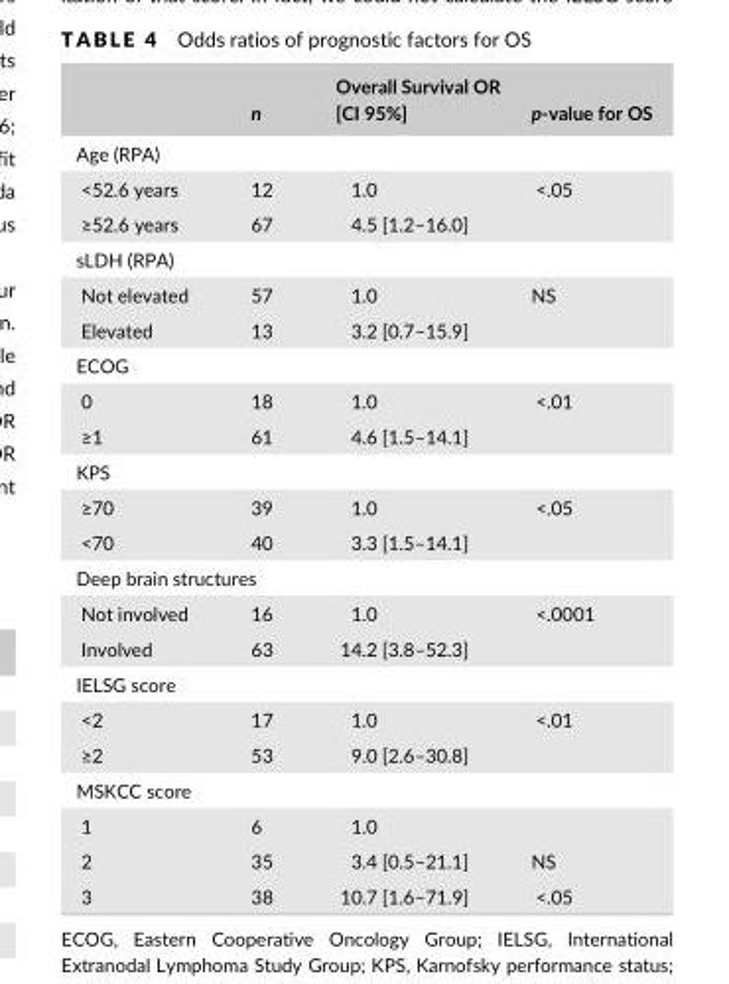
<table><thead><tr><td></td><td>n</td><td>Overall Survival OR [CI 95%]</td><td>p- value for OS</td></tr></thead><tbody><tr><td colspan="4">Age (RPA)</td></tr><tr><td>&lt;52.6 years</td><td>12</td><td>1.0</td><td rowspan="2">&lt;.05</td></tr><tr><td>≥52.6 years</td><td>67</td><td>4.5 [1.2–16.0]</td></tr><tr><td colspan="4">sLDH (RPA)</td></tr><tr><td>Not elevated</td><td>57</td><td>1.0</td><td rowspan="2">NS</td></tr><tr><td>Elevated</td><td>13</td><td>3.2 [0.7–15.9]</td></tr><tr><td colspan="4">ECOG</td></tr><tr><td>0</td><td>18</td><td>1.0</td><td rowspan="2">&lt;.01</td></tr><tr><td>≥1</td><td>61</td><td>4.6 [1.5–14.1]</td></tr><tr><td colspan="4">KPS</td></tr><tr><td>≥70</td><td>39</td><td>1.0</td><td rowspan="2">&lt;.05</td></tr><tr><td>&lt;70</td><td>40</td><td>3.3 [1.5–14.1]</td></tr><tr><td colspan="4">Deep brain structures</td></tr><tr><td>Not involved</td><td>16</td><td>1.0</td><td rowspan="2">&lt;.0001</td></tr><tr><td>Involved</td><td>63</td><td>14.2 [3.8–52.3]</td></tr><tr><td colspan="4">IELSG score</td></tr><tr><td>&lt;2</td><td>17</td><td>1.0</td><td rowspan="2">&lt;.01</td></tr><tr><td>≥2</td><td>53</td><td>9.0 [2.6–30.8]</td></tr><tr><td colspan="4">MSKCC score</td></tr><tr><td>1</td><td>6</td><td>1.0</td><td></td></tr><tr><td>2</td><td>35</td><td>3.4 [0.5–21.1]</td><td>NS</td></tr><tr><td>3</td><td>38</td><td>10.7 [1.6–71.9]</td><td>&lt;.05</td></tr></tbody></table>